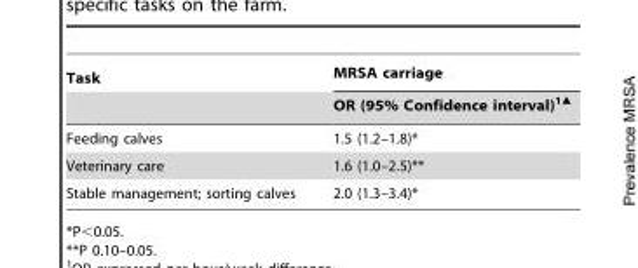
<table><thead><tr><td rowspan="2">Task</td><td rowspan="2">MRSA carriage OR (95% Confidence interval)<sup>1</sup>▴</td></tr><tr></tr></thead><tbody><tr><td>Feeding calves</td><td>1.5 (1.2–1.8)*</td></tr><tr><td>Veterinary care</td><td>1.6 (1.0–2.5)**</td></tr><tr><td>Stable management; sorting calves</td><td>2.0 (1.3–3.4)*</td></tr></tbody></table>